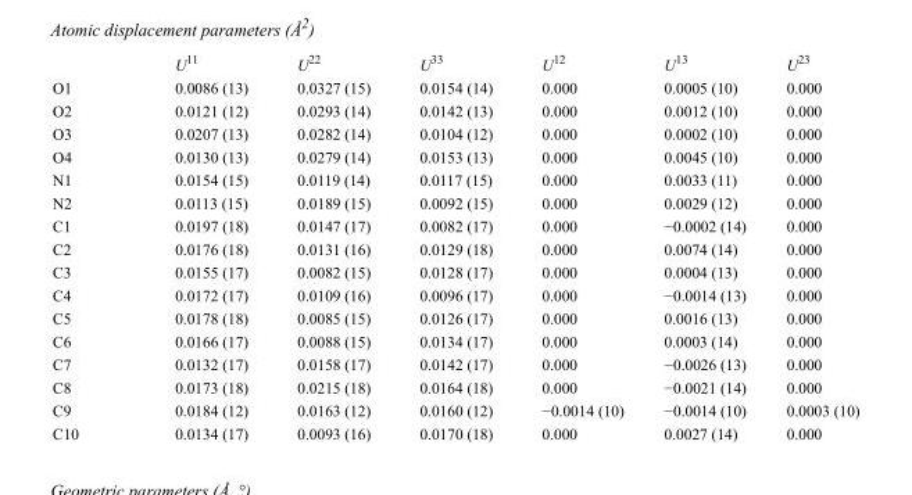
<table><thead><tr><td></td><td>U<sup>11</sup></td><td>U<sup>22</sup></td><td>U<sup>33</sup></td><td>U<sup>12</sup></td><td>U<sup>13</sup></td><td>U<sup>23</sup></td></tr></thead><tbody><tr><td>O1</td><td>0.0086 (13)</td><td>0.0327 (15)</td><td>0.0154 (14)</td><td>0.000</td><td>0.0005 (10)</td><td>0.000</td></tr><tr><td>O2</td><td>0.0121 (12)</td><td>0.0293 (14)</td><td>0.0142 (13)</td><td>0.000</td><td>0.0012 (10)</td><td>0.000</td></tr><tr><td>O3</td><td>0.0207 (13)</td><td>0.0282 (14)</td><td>0.0104 (12)</td><td>0.000</td><td>0.0002 (10)</td><td>0.000</td></tr><tr><td>O4</td><td>0.0130 (13)</td><td>0.0279 (14)</td><td>0.0153 (13)</td><td>0.000</td><td>0.0045 (10)</td><td>0.000</td></tr><tr><td>N1</td><td>0.0154 (15)</td><td>0.0119 (14)</td><td>0.0117 (15)</td><td>0.000</td><td>0.0033 (11)</td><td>0.000</td></tr><tr><td>N2</td><td>0.0113 (15)</td><td>0.0189 (15)</td><td>0.0092 (15)</td><td>0.000</td><td>0.0029 (12)</td><td>0.000</td></tr><tr><td>C1</td><td>0.0197 (18)</td><td>0.0147 (17)</td><td>0.0082 (17)</td><td>0.000</td><td>−0.0002 (14)</td><td>0.000</td></tr><tr><td>C2</td><td>0.0176 (18)</td><td>0.0131 (16)</td><td>0.0129 (18)</td><td>0.000</td><td>0.0074 (14)</td><td>0.000</td></tr><tr><td>C3</td><td>0.0155 (17)</td><td>0.0082 (15)</td><td>0.0128 (17)</td><td>0.000</td><td>0.0004 (13)</td><td>0.000</td></tr><tr><td>C4</td><td>0.0172 (17)</td><td>0.0109 (16)</td><td>0.0096 (17)</td><td>0.000</td><td>−0.0014 (13)</td><td>0.000</td></tr><tr><td>C5</td><td>0.0178 (18)</td><td>0.0085 (15)</td><td>0.0126 (17)</td><td>0.000</td><td>0.0016 (13)</td><td>0.000</td></tr><tr><td>C6</td><td>0.0166 (17)</td><td>0.0088 (15)</td><td>0.0134 (17)</td><td>0.000</td><td>0.0003 (14)</td><td>0.000</td></tr><tr><td>C7</td><td>0.0132 (17)</td><td>0.0158 (17)</td><td>0.0142 (17)</td><td>0.000</td><td>−0.0026 (13)</td><td>0.000</td></tr><tr><td>C8</td><td>0.0173 (18)</td><td>0.0215 (18)</td><td>0.0164 (18)</td><td>0.000</td><td>−0.0021 (14)</td><td>0.000</td></tr><tr><td>C9</td><td>0.0184 (12)</td><td>0.0163 (12)</td><td>0.0160 (12)</td><td>−0.0014 (10)</td><td>−0.0014 (10)</td><td>0.0003 (10)</td></tr><tr><td>C10</td><td>0.0134 (17)</td><td>0.0093 (16)</td><td>0.0170 (18)</td><td>0.000</td><td>0.0027 (14)</td><td>0.000</td></tr></tbody></table>